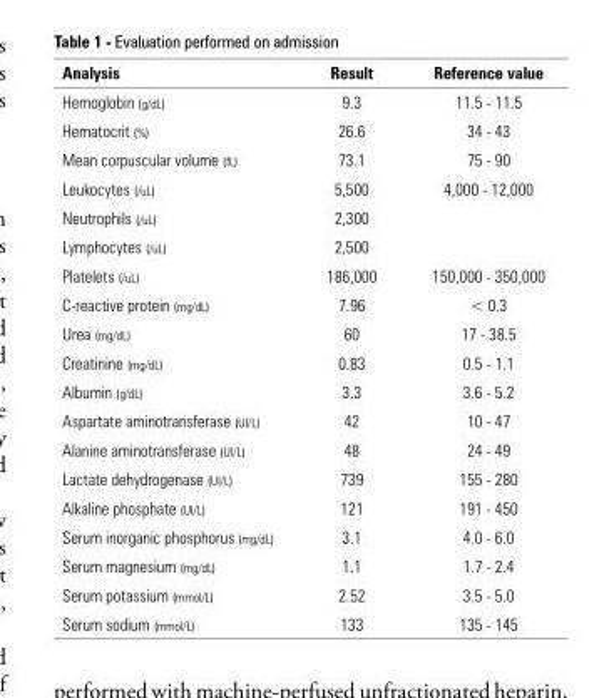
<table><thead><tr><td>Analysis</td><td>Result</td><td>Reference value</td></tr></thead><tbody><tr><td>Hemoglobin (g/dL)</td><td>9.3</td><td>11.5 - 11.5</td></tr><tr><td>Hematocrit (%)</td><td>26.6</td><td>34 - 43</td></tr><tr><td>Mean corpuscular volume (fL)</td><td>73.1</td><td>75 - 90</td></tr><tr><td>Leukocytes (/uL)</td><td>5,500</td><td>4,000 - 12,000</td></tr><tr><td>Neutrophils (/uL)</td><td>2,300</td><td></td></tr><tr><td>Lymphocytes (/uL)</td><td>2,500</td><td></td></tr><tr><td>Platelets (/uL)</td><td>186,000</td><td>150,000 - 350,000</td></tr><tr><td>C-reactive protein (mg/dL)</td><td>7.96</td><td>&lt; 0.3</td></tr><tr><td>Urea (mg/dL)</td><td>60</td><td>17 - 38.5</td></tr><tr><td>Creatinine (mg/dL)</td><td>0.83</td><td>0.5 - 1.1</td></tr><tr><td>Albumin (g/dL)</td><td>3.3</td><td>3.6 - 5.2</td></tr><tr><td>Aspartate aminotransferase (UI/L)</td><td>42</td><td>10 - 47</td></tr><tr><td>Alanine aminotransferase (UI/L)</td><td>48</td><td>24 - 49</td></tr><tr><td>Lactate dehydrogenase (UI/L)</td><td>739</td><td>155 - 280</td></tr><tr><td>Alkaline phosphate (UI/L)</td><td>121</td><td>191 - 450</td></tr><tr><td>Serum inorganic phosphorus (mg/dL)</td><td>3.1</td><td>4.0 - 6.0</td></tr><tr><td>Serum magnesium (mg/dL)</td><td>1.1</td><td>1.7 - 2.4</td></tr><tr><td>Serum potassium (mmol/L)</td><td>2.52</td><td>3.5 - 5.0</td></tr><tr><td>Serum sodium (mmol/L)</td><td>133</td><td>135 - 145</td></tr></tbody></table>